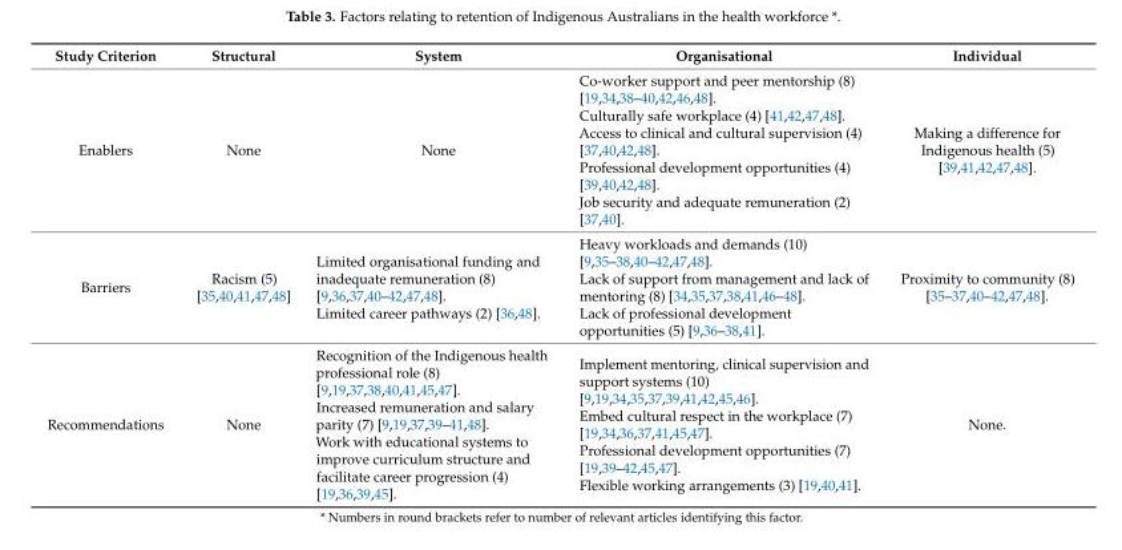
<table><thead><tr><td>Study Criterion</td><td>Structural</td><td>System</td><td>Organisational</td><td>Individual</td></tr></thead><tbody><tr><td>Enablers</td><td>None</td><td>None</td><td>Co-worker support and peer mentorship (8) [19,34,38–40,42,46,48]. Culturally safe workplace (4) [41,42,47,48]. Access to clinical and cultural supervision (4) [37,40,42,48]. Professional development opportunities (4) [39,40,42,48]. Job security and adequate remuneration (2) [37,40].</td><td>Making a difference for Indigenous health (5) [39,41,42,47,48].</td></tr><tr><td>Barriers</td><td>Racism (5) [35,40,41,47,48]</td><td>Limited organisational funding and inadequate remuneration (8) [9,36,37,40–42,47,48]. Limited career pathways (2) [36,48].</td><td>Heavy workloads and demands (10) [9,35–38,40–42,47,48]. Lack of support from management and lack of mentoring (8) [34,35,37,38,41,46–48]. Lack of professional development opportunities (5) [9,36–38,41].</td><td>Proximity to community (8) [35–37,40–42,47,48].</td></tr><tr><td>Recommendations</td><td>None</td><td>Recognition of the Indigenous health professional role (8) [9,19,37,38,40,41,45,47]. Increased remuneration and salary parity (7) [9,19,37,39–41,48]. Work with educational systems to improve curriculum structure and facilitate career progression (4) [19,36,39,45].</td><td>Implement mentoring, clinical supervision and support systems (10) [9,19,34,35,37,39,41,42,45,46]. Embed cultural respect in the workplace (7) [19,34,36,37,41,45,47]. Professional development opportunities (7) [19,39–42,45,47]. Flexible working arrangements (3) [19,40,41].</td><td>None.</td></tr></tbody></table>